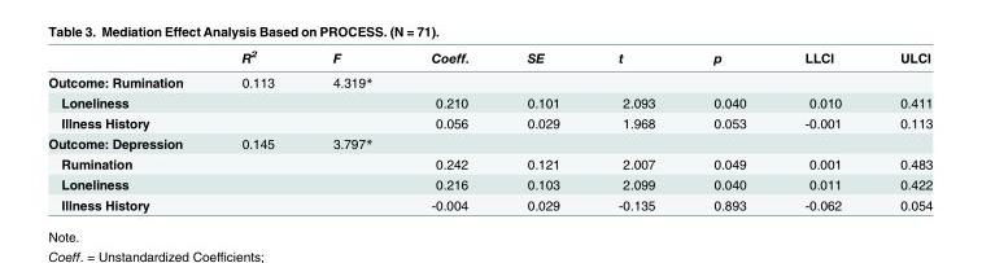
<table><thead><tr><td></td><td>R<sup>2</sup></td><td>F</td><td>Coeff.</td><td>SE</td><td>t</td><td>p</td><td>LLCI</td><td>ULCI</td></tr></thead><tbody><tr><td>Outcome: Rumination</td><td>0.113</td><td>4.319*</td><td></td><td></td><td></td><td></td><td></td><td></td></tr><tr><td>Loneliness</td><td></td><td></td><td>0.210</td><td>0.101</td><td>2.093</td><td>0.040</td><td>0.010</td><td>0.411</td></tr><tr><td>Illness History</td><td></td><td></td><td>0.056</td><td>0.029</td><td>1.968</td><td>0.053</td><td>-0.001</td><td>0.113</td></tr><tr><td>Outcome: Depression</td><td>0.145</td><td>3.797*</td><td></td><td></td><td></td><td></td><td></td><td></td></tr><tr><td>Rumination</td><td></td><td></td><td>0.242</td><td>0.121</td><td>2.007</td><td>0.049</td><td>0.001</td><td>0.483</td></tr><tr><td>Loneliness</td><td></td><td></td><td>0.216</td><td>0.103</td><td>2.099</td><td>0.040</td><td>0.011</td><td>0.422</td></tr><tr><td>Illness History</td><td></td><td></td><td>-0.004</td><td>0.029</td><td>-0.135</td><td>0.893</td><td>-0.062</td><td>0.054</td></tr></tbody></table>